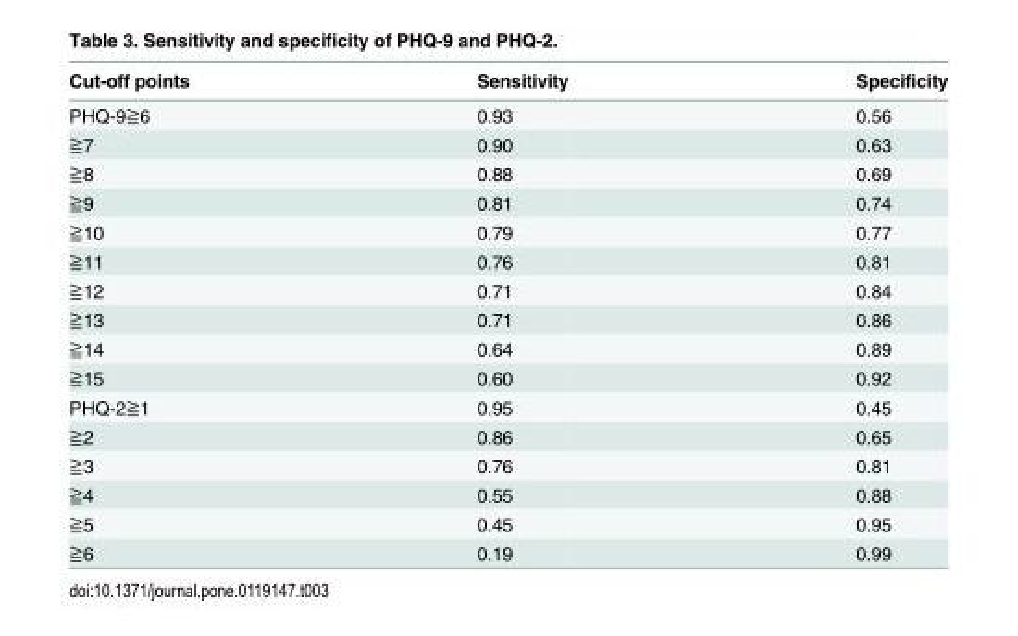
<table><thead><tr><td>Cut-off points</td><td>Sensitivity</td><td>Specificity</td></tr></thead><tbody><tr><td>PHQ-9≧6</td><td>0.93</td><td>0.56</td></tr><tr><td>≧7</td><td>0.90</td><td>0.63</td></tr><tr><td>≧8</td><td>0.88</td><td>0.69</td></tr><tr><td>≧9</td><td>0.81</td><td>0.74</td></tr><tr><td>≧10</td><td>0.79</td><td>0.77</td></tr><tr><td>≧11</td><td>0.76</td><td>0.81</td></tr><tr><td>≧12</td><td>0.71</td><td>0.84</td></tr><tr><td>≧13</td><td>0.71</td><td>0.86</td></tr><tr><td>≧14</td><td>0.64</td><td>0.89</td></tr><tr><td>≧15</td><td>0.60</td><td>0.92</td></tr><tr><td>PHQ-2≧1</td><td>0.95</td><td>0.45</td></tr><tr><td>≧2</td><td>0.86</td><td>0.65</td></tr><tr><td>≧3</td><td>0.76</td><td>0.81</td></tr><tr><td>≧4</td><td>0.55</td><td>0.88</td></tr><tr><td>≧5</td><td>0.45</td><td>0.95</td></tr><tr><td>≧6</td><td>0.19</td><td>0.99</td></tr></tbody></table>